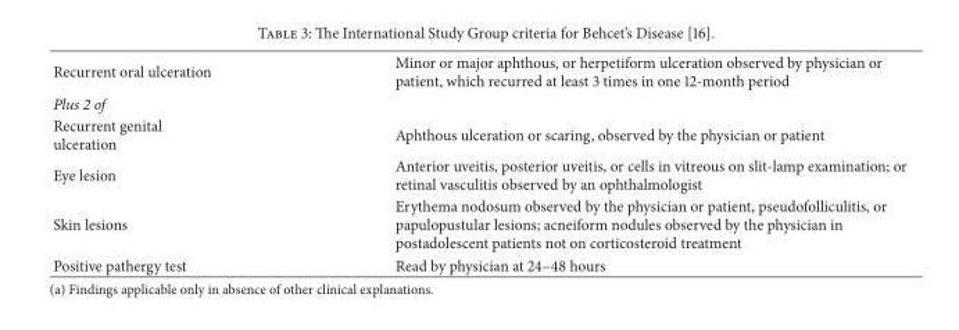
<table><tbody><tr><td>Recurrent oral ulceration</td><td>Minor or major aphthous, or herpetiform ulceration observed by physician or patient, which recurred at least 3 times in one 12-month period</td></tr><tr><td colspan="2">Plus 2 of</td></tr><tr><td>Recurrent genital ulceration</td><td>Aphthous ulceration or scaring, observed by the physician or patient</td></tr><tr><td>Eye lesion</td><td>Anterior uveitis, posterior uveitis, or cells in vitreous on slit-lamp examination; or retinal vasculitis observed by an ophthalmologist</td></tr><tr><td>Skin lesions</td><td>Erythema nodosum observed by the physician or patient, pseudofolliculitis, or papulopustular lesions; acneiform nodules observed by the physician in postadolescent patients not on corticosteroid treatment</td></tr><tr><td>Positive pathergy test</td><td>Read by physician at 24–48 hours</td></tr></tbody></table>